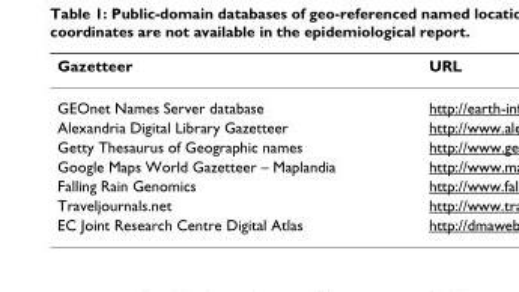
<table><thead><tr><td>Gazetteer</td><td>URL</td></tr></thead><tbody><tr><td colspan="2">GEOnet Names Server database</td></tr><tr><td colspan="2">Alexandria Digital Library Gazetteer</td></tr><tr><td colspan="2">Getty Thesaurus of Geographic names</td></tr><tr><td colspan="2">Google Maps World Gazetteer – Maplandia</td></tr><tr><td colspan="2">Falling Rain Genomics</td></tr><tr><td colspan="2">Traveljournals.net</td></tr><tr><td>EC Joint Research Centre Digital Atlas</td><td></td></tr></tbody></table>